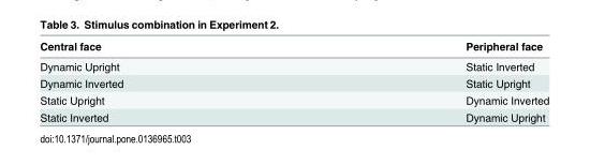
<table><thead><tr><td>Central face</td><td>Peripheral face</td></tr></thead><tbody><tr><td>Dynamic Upright</td><td>Static Inverted</td></tr><tr><td>Dynamic Inverted</td><td>Static Upright</td></tr><tr><td>Static Upright</td><td>Dynamic Inverted</td></tr><tr><td>Static Inverted</td><td>Dynamic Upright</td></tr></tbody></table>